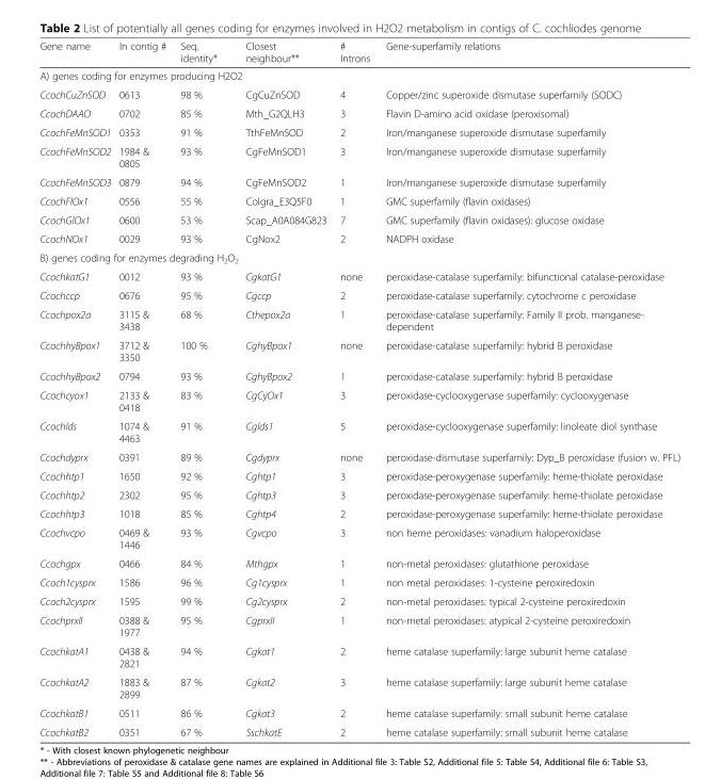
<table><thead><tr><td>Gene name</td><td>In contig #</td><td>Seq. identity*</td><td>Closest neighbour**</td><td># Introns</td><td>Gene-superfamily relations</td></tr></thead><tbody><tr><td colspan="6">A) genes coding for enzymes producing H2O2</td></tr><tr><td>CcochCuZnSOD</td><td>0613</td><td>98 %</td><td>CgCuZnSOD</td><td>4</td><td>Copper/zinc superoxide dismutase superfamily (SODC)</td></tr><tr><td>CcochDAAO</td><td>0702</td><td>85 %</td><td>Mth_G2QLH3</td><td>3</td><td>Flavin D-amino acid oxidase (peroxisomal)</td></tr><tr><td>CcochFeMnSOD1</td><td>0353</td><td>91 %</td><td>TthFeMnSOD</td><td>2</td><td>Iron/manganese superoxide dismutase superfamily</td></tr><tr><td>CcochFeMnSOD2</td><td>1984 &amp; 0805</td><td>93 %</td><td>CgFeMnSOD1</td><td>3</td><td>Iron/manganese superoxide dismutase superfamily</td></tr><tr><td>CcochFeMnSOD3</td><td>0879</td><td>94 %</td><td>CgFeMnSOD2</td><td>1</td><td>Iron/manganese superoxide dismutase superfamily</td></tr><tr><td>CcochFlOx1</td><td>0556</td><td>55 %</td><td>Colgra_E3Q5F0</td><td>1</td><td>GMC superfamily (flavin oxidases)</td></tr><tr><td>CcochGlOx1</td><td>0600</td><td>53 %</td><td>Scap_A0A084G823</td><td>7</td><td>GMC superfamily (flavin oxidases): glucose oxidase</td></tr><tr><td>CcochNOx1</td><td>0029</td><td>93 %</td><td>CgNox2</td><td>2</td><td>NADPH oxidase</td></tr><tr><td colspan="6">B) genes coding for enzymes degrading H<sub>2</sub>O<sub>2</sub></td></tr><tr><td>CcochkatG1</td><td>0012</td><td>93 %</td><td>CgkatG1</td><td>none</td><td>peroxidase-catalase superfamily: bifunctional catalase-peroxidase</td></tr><tr><td>Ccochccp</td><td>0676</td><td>95 %</td><td>Cgccp</td><td>2</td><td>peroxidase-catalase superfamily: cytochrome c peroxidase</td></tr><tr><td>Ccochpox2a</td><td>3115 &amp; 3438</td><td>68 %</td><td>Cthepox2a</td><td>1</td><td>peroxidase-catalase superfamily: Family II prob. manganese- dependent</td></tr><tr><td>CcochhyBpox1</td><td>3712 &amp; 3350</td><td>100 %</td><td>CghyBpox1</td><td>none</td><td>peroxidase-catalase superfamily: hybrid B peroxidase</td></tr><tr><td>CcochhyBpox2</td><td>0794</td><td>93 %</td><td>CghyBpox2</td><td>1</td><td>peroxidase-catalase superfamily: hybrid B peroxidase</td></tr><tr><td>Ccochcyox1</td><td>2133 &amp; 0418</td><td>83 %</td><td>CgCyOx1</td><td>3</td><td>peroxidase-cyclooxygenase superfamily: cyclooxygenase</td></tr><tr><td>Ccochlds</td><td>1074 &amp; 4463</td><td>91 %</td><td>Cglds1</td><td>5</td><td>peroxidase-cyclooxygenase superfamily: linoleate diol synthase</td></tr><tr><td>Ccochdyprx</td><td>0391</td><td>89 %</td><td>Cgdyprx</td><td>none</td><td>peroxidase-dismutase superfamily: Dyp_B peroxidase (fusion w. PFL)</td></tr><tr><td>Ccochhtp1</td><td>1650</td><td>92 %</td><td>Cghtp1</td><td>3</td><td>peroxidase-peroxygenase superfamily: heme-thiolate peroxidase</td></tr><tr><td>Ccochhtp2</td><td>2302</td><td>95 %</td><td>Cghtp3</td><td>3</td><td>peroxidase-peroxygenase superfamily: heme-thiolate peroxidase</td></tr><tr><td>Ccochhtp3</td><td>1018</td><td>85 %</td><td>Cghtp4</td><td>2</td><td>peroxidase-peroxygenase superfamily: heme-thiolate peroxidase</td></tr><tr><td>Ccochvcpo</td><td>0469 &amp; 1446</td><td>93 %</td><td>Cgvcpo</td><td>3</td><td>non heme peroxidases: vanadium haloperoxidase</td></tr><tr><td>Ccochgpx</td><td>0466</td><td>84 %</td><td>Mthgpx</td><td>1</td><td>non-metal peroxidases: glutathione peroxidase</td></tr><tr><td>Ccoch1cysprx</td><td>1586</td><td>96 %</td><td>Cg1cysprx</td><td>1</td><td>non metal peroxidases: 1-cysteine peroxiredoxin</td></tr><tr><td>Ccoch2cysprx</td><td>1595</td><td>99 %</td><td>Cg2cysprx</td><td>2</td><td>non-metal peroxidases: typical 2-cysteine peroxiredoxin</td></tr><tr><td>CcochprxII</td><td>0388 &amp; 1977</td><td>95 %</td><td>CgprxII</td><td>1</td><td>non-metal peroxidases: atypical 2-cysteine peroxiredoxin</td></tr><tr><td>CcochkatA1</td><td>0438 &amp; 2821</td><td>94 %</td><td>Cgkat1</td><td>2</td><td>heme catalase superfamily: large subunit heme catalase</td></tr><tr><td>CcochkatA2</td><td>1883 &amp; 2899</td><td>87 %</td><td>Cgkat2</td><td>3</td><td>heme catalase superfamily: large subunit heme catalase</td></tr><tr><td>CcochkatB1</td><td>0511</td><td>86 %</td><td>Cgkat3</td><td>2</td><td>heme catalase superfamily: small subunit heme catalase</td></tr><tr><td>CcochkatB2</td><td>0351</td><td>67 %</td><td>SschkatE</td><td>2</td><td>heme catalase superfamily: small subunit heme catalase</td></tr></tbody></table>